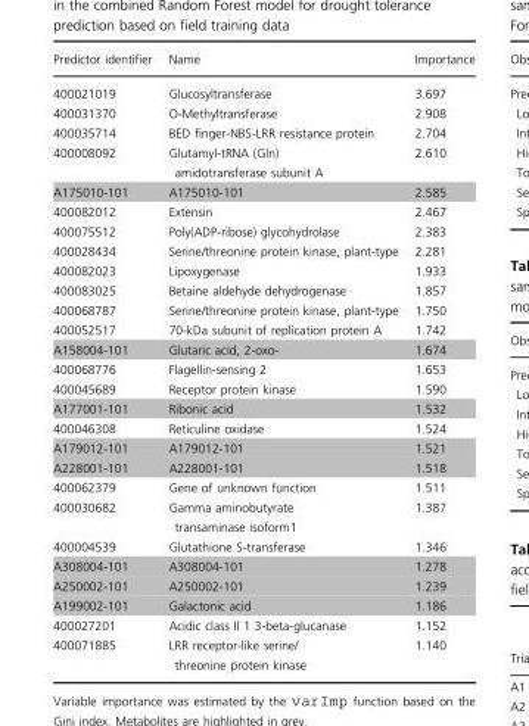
<table><thead><tr><td>Predictor identifier</td><td>Name</td><td>Importance</td></tr></thead><tbody><tr><td>400021019</td><td>Glucosyltransferase</td><td>3.697</td></tr><tr><td>400031370</td><td>O-Methyltransferase</td><td>2.908</td></tr><tr><td>400035714</td><td>BED finger-NBS-LRR resistance protein</td><td>2.704</td></tr><tr><td>400008092</td><td>Glutamyl-tRNA (Gln) amidotransferase subunit A</td><td>2.610</td></tr><tr><td>A175010-101</td><td>A175010-101</td><td>2.585</td></tr><tr><td>400082012</td><td>Extensin</td><td>2.467</td></tr><tr><td>400075512</td><td>Poly(ADP-ribose) glycohydrolase</td><td>2.383</td></tr><tr><td>400028434</td><td>Serine/threonine protein kinase, plant-type</td><td>2.281</td></tr><tr><td>400082023</td><td>Lipoxygenase</td><td>1.933</td></tr><tr><td>400083025</td><td>Betaine aldehyde dehydrogenase</td><td>1.857</td></tr><tr><td>400068787</td><td>Serine/threonine protein kinase, plant-type</td><td>1.750</td></tr><tr><td>400052517</td><td>70-kDa subunit of replication protein A</td><td>1.742</td></tr><tr><td>A158004-101</td><td>Glutaric acid, 2-oxo-</td><td>1.674</td></tr><tr><td>400068776</td><td>Flagellin-sensing 2</td><td>1.653</td></tr><tr><td>400045689</td><td>Receptor protein kinase</td><td>1.590</td></tr><tr><td>A177001-101</td><td>Ribonic acid</td><td>1.532</td></tr><tr><td>400046308</td><td>Reticuline oxidase</td><td>1.524</td></tr><tr><td>A179012-101</td><td>A179012-101</td><td>1.521</td></tr><tr><td>A228001-101</td><td>A228001-101</td><td>1.518</td></tr><tr><td>400062379</td><td>Gene of unknown function</td><td>1.511</td></tr><tr><td>400030682</td><td>Gamma aminobutyrate transaminase isoform1</td><td>1.387</td></tr><tr><td>400004539</td><td>Glutathione S-transferase</td><td>1.346</td></tr><tr><td>A308004-101</td><td>A308004-101</td><td>1.278</td></tr><tr><td>A250002-101</td><td>A250002-101</td><td>1.239</td></tr><tr><td>A199002-101</td><td>Galactonic acid</td><td>1.186</td></tr><tr><td>400027201</td><td>Acidic class II 1 3-beta-glucanase</td><td>1.152</td></tr><tr><td>400071885</td><td>LRR receptor-like serine/ threonine protein kinase</td><td>1.140</td></tr></tbody></table>